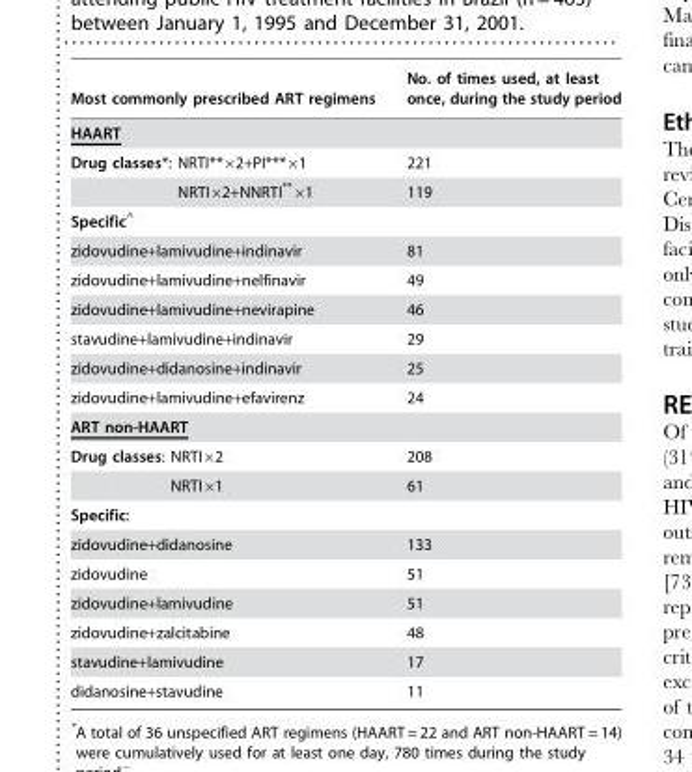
<table><thead><tr><td>Most commonly prescribed ART regimens</td><td>No. of times used, at least once, during the study period</td></tr></thead><tbody><tr><td colspan="2">HAART</td></tr><tr><td>Drug classes*: NRTI**×2+PI***×1</td><td>221</td></tr><tr><td>NRTI×2+NNRTI**×1</td><td>119</td></tr><tr><td colspan="2">Specific^</td></tr><tr><td>zidovudine+lamivudine+indinavir</td><td>81</td></tr><tr><td>zidovudine+lamivudine+nelfinavir</td><td>49</td></tr><tr><td>zidovudine+lamivudine+nevirapine</td><td>46</td></tr><tr><td>stavudine+lamivudine+indinavir</td><td>29</td></tr><tr><td>zidovudine+didanosine+indinavir</td><td>25</td></tr><tr><td>zidovudine+lamivudine+efavirenz</td><td>24</td></tr><tr><td colspan="2">ART non-HAART</td></tr><tr><td>Drug classes: NRTI×2</td><td>208</td></tr><tr><td>NRTI×1</td><td>61</td></tr><tr><td colspan="2">Specific:</td></tr><tr><td>zidovudine+didanosine</td><td>133</td></tr><tr><td>zidovudine</td><td>51</td></tr><tr><td>zidovudine+lamivudine</td><td>51</td></tr><tr><td>zidovudine+zalcitabine</td><td>48</td></tr><tr><td>stavudine+lamivudine</td><td>17</td></tr><tr><td>didanosine+stavudine</td><td>11</td></tr></tbody></table>